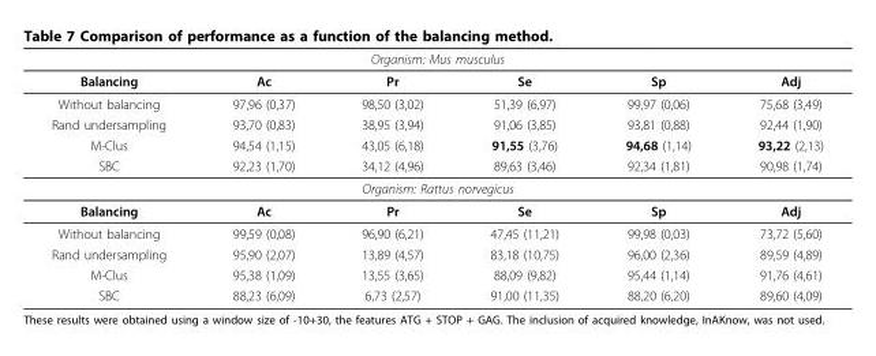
<table><thead><tr><td colspan="6">Organism: Mus musculus</td></tr><tr><td>Balancing</td><td>Ac</td><td>Pr</td><td>Se</td><td>Sp</td><td>Adj</td></tr></thead><tbody><tr><td>Without balancing</td><td>97,96 (0,37)</td><td>98,50 (3,02)</td><td>51,39 (6,97)</td><td>99,97 (0,06)</td><td>75,68 (3,49)</td></tr><tr><td>Rand undersampling</td><td>93,70 (0,83)</td><td>38,95 (3,94)</td><td>91,06 (3,85)</td><td>93,81 (0,88)</td><td>92,44 (1,90)</td></tr><tr><td>M-Clus</td><td>94,54 (1,15)</td><td>43,05 (6,18)</td><td>91,55 (3,76)</td><td>94,68 (1,14)</td><td>93,22 (2,13)</td></tr><tr><td>SBC</td><td>92,23 (1,70)</td><td>34,12 (4,96)</td><td>89,63 (3,46)</td><td>92,34 (1,81)</td><td>90,98 (1,74)</td></tr><tr><td colspan="6">Organism: Rattus norvegicus</td></tr><tr><td>Balancing</td><td>Ac</td><td>Pr</td><td>Se</td><td>Sp</td><td>Adj</td></tr><tr><td>Without balancing</td><td>99,59 (0,08)</td><td>96,90 (6,21)</td><td>47,45 (11,21)</td><td>99,98 (0,03)</td><td>73,72 (5,60)</td></tr><tr><td>Rand undersampling</td><td>95,90 (2,07)</td><td>13,89 (4,57)</td><td>83,18 (10,75)</td><td>96,00 (2,36)</td><td>89,59 (4,89)</td></tr><tr><td>M-Clus</td><td>95,38 (1,09)</td><td>13,55 (3,65)</td><td>88,09 (9,82)</td><td>95,44 (1,14)</td><td>91,76 (4,61)</td></tr><tr><td>SBC</td><td>88,23 (6,09)</td><td>6,73 (2,57)</td><td>91,00 (11,35)</td><td>88,20 (6,20)</td><td>89,60 (4,09)</td></tr></tbody></table>